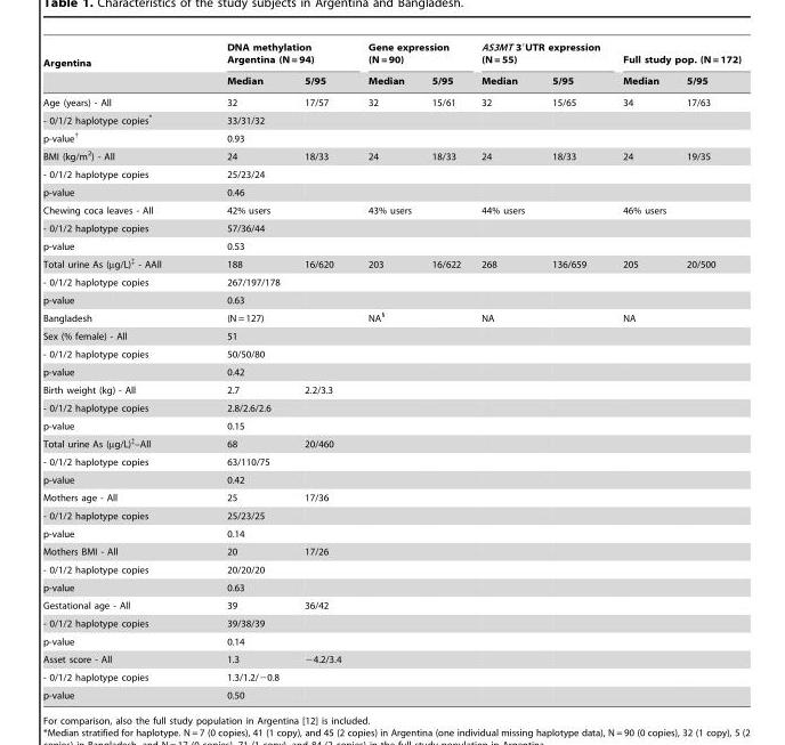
<table><thead><tr><td rowspan="2">Argentina</td><td colspan="2">DNA methylation Argentina (N = 94)</td><td colspan="2">Gene expression (N = 90)</td><td colspan="2">AS3MT 3′UTR expression (N = 55)</td><td colspan="2">Full study pop. (N = 172)</td></tr><tr><td>Median</td><td>5/95</td><td>Median</td><td>5/95</td><td>Median</td><td>5/95</td><td>Median</td><td>5/95</td></tr></thead><tbody><tr><td>Age (years) - All</td><td>32</td><td>17/57</td><td>32</td><td>15/61</td><td>32</td><td>15/65</td><td>34</td><td>17/63</td></tr><tr><td>- 0/1/2 haplotype copies*</td><td>33/31/32</td><td></td><td></td><td></td><td></td><td></td><td></td><td></td></tr><tr><td>p-value†</td><td>0.93</td><td></td><td></td><td></td><td></td><td></td><td></td><td></td></tr><tr><td>BMI (kg/m<sup>2</sup>) - All</td><td>24</td><td>18/33</td><td>24</td><td>18/33</td><td>24</td><td>18/33</td><td>24</td><td>19/35</td></tr><tr><td>- 0/1/2 haplotype copies</td><td>25/23/24</td><td></td><td></td><td></td><td></td><td></td><td></td><td></td></tr><tr><td>p-value</td><td>0.46</td><td></td><td></td><td></td><td></td><td></td><td></td><td></td></tr><tr><td>Chewing coca leaves - All</td><td colspan="2">42% users</td><td colspan="2">43% users</td><td colspan="2">44% users</td><td colspan="2">46% users</td></tr><tr><td>- 0/1/2 haplotype copies</td><td colspan="2">57/36/44</td><td colspan="2"></td><td colspan="2"></td><td></td><td></td></tr><tr><td>p-value</td><td colspan="2">0.53</td><td colspan="2"></td><td colspan="2"></td><td></td><td></td></tr><tr><td>Total urine As (µg/L)‡ - AAll</td><td>188</td><td>16/620</td><td>203</td><td>16/622</td><td>268</td><td>136/659</td><td>205</td><td>20/500</td></tr><tr><td>- 0/1/2 haplotype copies</td><td>267/197/178</td><td></td><td></td><td></td><td></td><td></td><td></td><td></td></tr><tr><td>p-value</td><td>0.63</td><td></td><td></td><td></td><td></td><td></td><td></td><td></td></tr><tr><td>Bangladesh</td><td colspan="2">(N = 127)</td><td colspan="2">NA§</td><td colspan="2">NA</td><td colspan="2">NA</td></tr><tr><td>Sex (% female) - All</td><td colspan="2">51</td><td></td><td></td><td></td><td></td><td></td><td></td></tr><tr><td>- 0/1/2 haplotype copies</td><td colspan="2">50/50/80</td><td></td><td></td><td></td><td></td><td></td><td></td></tr><tr><td>p-value</td><td colspan="2">0.42</td><td></td><td></td><td></td><td></td><td></td><td></td></tr><tr><td>Birth weight (kg) - All</td><td>2.7</td><td>2.2/3.3</td><td></td><td></td><td></td><td></td><td></td><td></td></tr><tr><td>- 0/1/2 haplotype copies</td><td>2.8/2.6/2.6</td><td></td><td></td><td></td><td></td><td></td><td></td><td></td></tr><tr><td>p-value</td><td>0.15</td><td></td><td></td><td></td><td></td><td></td><td></td><td></td></tr><tr><td>Total urine As (µg/L)‡–All</td><td>68</td><td>20/460</td><td></td><td></td><td></td><td></td><td></td><td></td></tr><tr><td>- 0/1/2 haplotype copies</td><td>63/110/75</td><td></td><td></td><td></td><td></td><td></td><td></td><td></td></tr><tr><td>p-value</td><td>0.42</td><td></td><td></td><td></td><td></td><td></td><td></td><td></td></tr><tr><td>Mothers age - All</td><td>25</td><td>17/36</td><td></td><td></td><td></td><td></td><td></td><td></td></tr><tr><td>- 0/1/2 haplotype copies</td><td>25/23/25</td><td></td><td></td><td></td><td></td><td></td><td></td><td></td></tr><tr><td>p-value</td><td>0.14</td><td></td><td></td><td></td><td></td><td></td><td></td><td></td></tr><tr><td>Mothers BMI - All</td><td>20</td><td>17/26</td><td></td><td></td><td></td><td></td><td></td><td></td></tr><tr><td>- 0/1/2 haplotype copies</td><td>20/20/20</td><td></td><td></td><td></td><td></td><td></td><td></td><td></td></tr><tr><td>p-value</td><td>0.63</td><td></td><td></td><td></td><td></td><td></td><td></td><td></td></tr><tr><td>Gestational age - All</td><td>39</td><td>36/42</td><td></td><td></td><td></td><td></td><td></td><td></td></tr><tr><td>- 0/1/2 haplotype copies</td><td>39/38/39</td><td></td><td></td><td></td><td></td><td></td><td></td><td></td></tr><tr><td>p-value</td><td>0.14</td><td></td><td></td><td></td><td></td><td></td><td></td><td></td></tr><tr><td>Asset score - All</td><td>1.3</td><td>−4.2/3.4</td><td></td><td></td><td></td><td></td><td></td><td></td></tr><tr><td>- 0/1/2 haplotype copies</td><td>1.3/1.2/−0.8</td><td></td><td></td><td></td><td></td><td></td><td></td><td></td></tr><tr><td>p-value</td><td>0.50</td><td></td><td></td><td></td><td></td><td></td><td></td><td></td></tr></tbody></table>